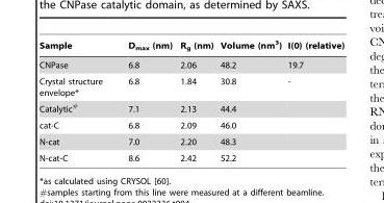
<table><thead><tr><td>Sample</td><td>D<sub>max</sub> (nm)</td><td>R<sub>g</sub> (nm)</td><td>Volume (nm<sup>3</sup>)</td><td>I(0) (relative)</td></tr></thead><tbody><tr><td>CNPase</td><td>6.8</td><td>2.06</td><td>48.2</td><td>19.7</td></tr><tr><td>Crystal structure envelope*</td><td>6.8</td><td>1.84</td><td>30.8</td><td>-</td></tr><tr><td>Catalytic#</td><td>7.1</td><td>2.13</td><td>44.4</td><td></td></tr><tr><td>cat-C</td><td>6.8</td><td>2.09</td><td>46.0</td><td></td></tr><tr><td>N-cat</td><td>7.0</td><td>2.20</td><td>48.3</td><td></td></tr><tr><td>N-cat-C</td><td>8.6</td><td>2.42</td><td>52.2</td><td></td></tr></tbody></table>